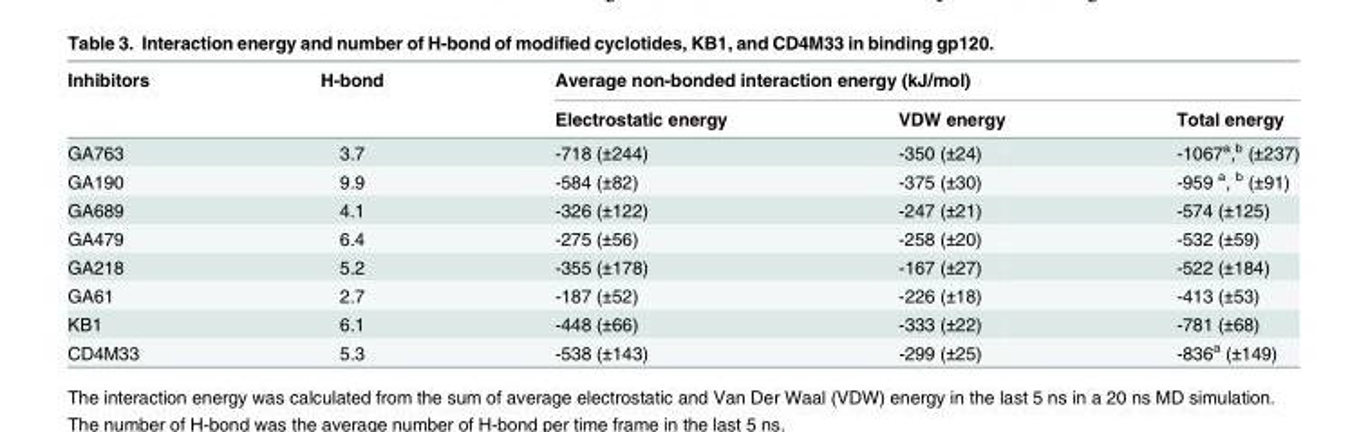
<table><thead><tr><td rowspan="2">Inhibitors</td><td rowspan="2">H-bond</td><td colspan="3">Average non-bonded interaction energy (kJ/mol)</td></tr><tr><td>Electrostatic energy</td><td>VDW energy</td><td>Total energy</td></tr></thead><tbody><tr><td>GA763</td><td>3.7</td><td>-718 (±244)</td><td>-350 (±24)</td><td>-1067<sup>a</sup>,<sup>b</sup> (±237)</td></tr><tr><td>GA190</td><td>9.9</td><td>-584 (±82)</td><td>-375 (±30)</td><td>-959 <sup>a</sup>, <sup>b</sup> (±91)</td></tr><tr><td>GA689</td><td>4.1</td><td>-326 (±122)</td><td>-247 (±21)</td><td>-574 (±125)</td></tr><tr><td>GA479</td><td>6.4</td><td>-275 (±56)</td><td>-258 (±20)</td><td>-532 (±59)</td></tr><tr><td>GA218</td><td>5.2</td><td>-355 (±178)</td><td>-167 (±27)</td><td>-522 (±184)</td></tr><tr><td>GA61</td><td>2.7</td><td>-187 (±52)</td><td>-226 (±18)</td><td>-413 (±53)</td></tr><tr><td>KB1</td><td>6.1</td><td>-448 (±66)</td><td>-333 (±22)</td><td>-781 (±68)</td></tr><tr><td>CD4M33</td><td>5.3</td><td>-538 (±143)</td><td>-299 (±25)</td><td>-836<sup>a</sup> (±149)</td></tr></tbody></table>